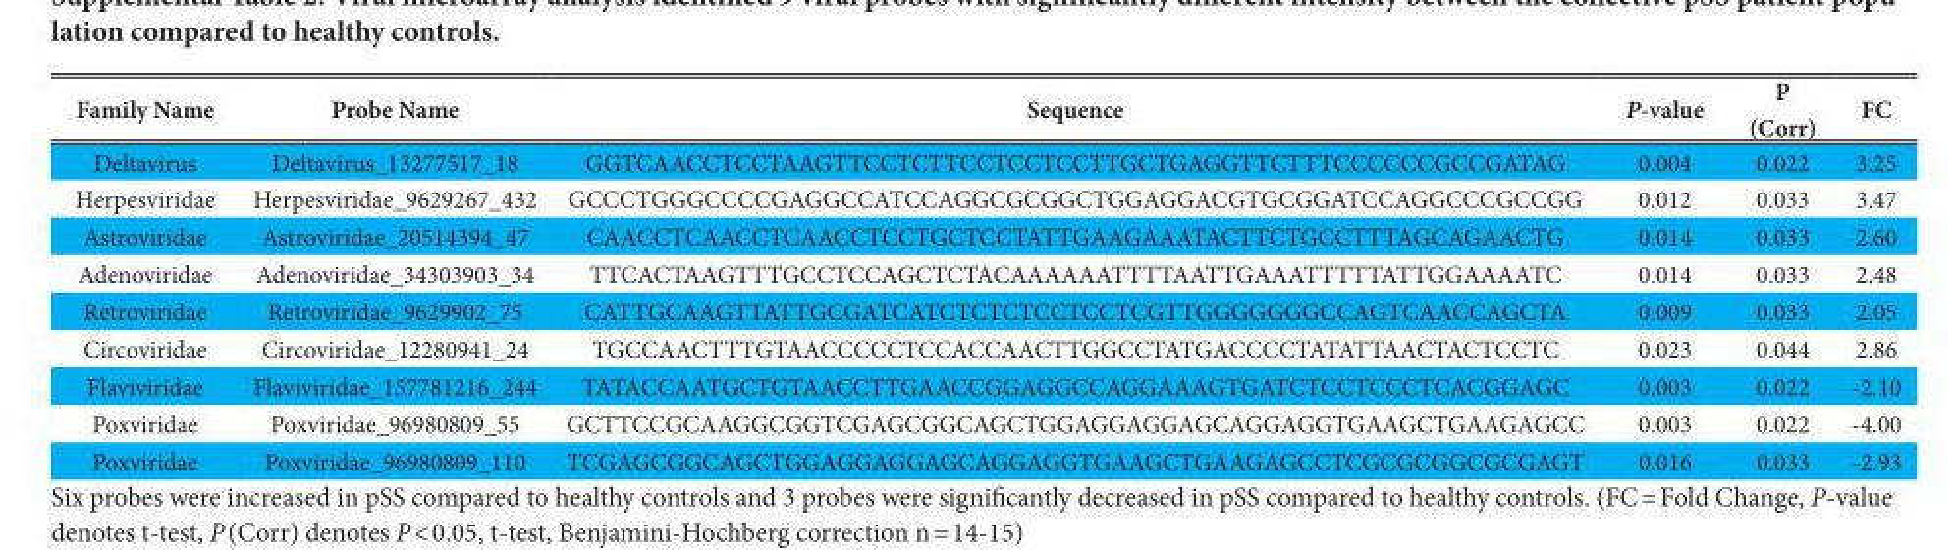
<table><thead><tr><td>Family Name</td><td>Probe Name</td><td>Sequence</td><td>P‐value</td><td>P (Corr)</td><td>FC</td></tr></thead><tbody><tr><td>Deltavirus</td><td>Deltavirus_13277517_18</td><td>GGTCAACCTCCTAAGTTCCTCTTCCTCCTCCTTGCTGAGGTTCTTTCCCCCCGCCGATAG</td><td>0.004</td><td>0.022</td><td>3.25</td></tr><tr><td>Herpesviridae</td><td>Herpesviridae_9629267_432</td><td>GCCCTGGGCCCCGAGGCCATCCAGGCGCGGCTGGAGGACGTGCGGATCCAGGCCCGCCGG</td><td>0.012</td><td>0.033</td><td>3.47</td></tr><tr><td>Astroviridae</td><td>Astroviridae_20514394_47</td><td>CAACCTCAACCTCAACCTCCTGCTCCTATTGAAGAAATACTTCTGCCTTTAGCAGAACTG</td><td>0.014</td><td>0.033</td><td>2.60</td></tr><tr><td>Adenoviridae</td><td>Adenoviridae_34303903_34</td><td>TTCACTAAGTTTGCCTCCAGCTCTACAAAAAATTTTAATTGAAATTTTTATTGGAAAATC</td><td>0.014</td><td>0.033</td><td>2.48</td></tr><tr><td>Retroviridae</td><td>Retroviridae_9629902_75</td><td>CATTGCAAGTTATTGCGATCATCTCTCTCCTCCTCGTTGGGGGGGCCAGTCAACCAGCTA</td><td>0.009</td><td>0.033</td><td>2.05</td></tr><tr><td>Circoviridae</td><td>Circoviridae_12280941_24</td><td>TGCCAACTTTGTAACCCCCTCCACCAACTTGGCCTATGACCCCTATATTAACTACTCCTC</td><td>0.023</td><td>0.044</td><td>2.86</td></tr><tr><td>Flaviviridae</td><td>Flaviviridae_157781216_244</td><td>TATACCAATGCTGTAACCTTGAACCGGAGGCCAGGAAAGTGATCTCCTCCCTCACGGAGC</td><td>0.003</td><td>0.022</td><td>-2.10</td></tr><tr><td>Poxviridae</td><td>Poxviridae_96980809_55</td><td>GCTTCCGCAAGGCGGTCGAGCGGCAGCTGGAGGAGGAGCAGGAGGTGAAGCTGAAGAGCC</td><td>0.003</td><td>0.022</td><td>-4.00</td></tr><tr><td>Poxviridae</td><td>Poxviridae_96980809_110</td><td>TCGAGCGGCAGCTGGAGGAGGAGCAGGAGGTGAAGCTGAAGAGCCTCGCGCGGCGCGAGT</td><td>0.016</td><td>0.033</td><td>-2.93</td></tr></tbody></table>